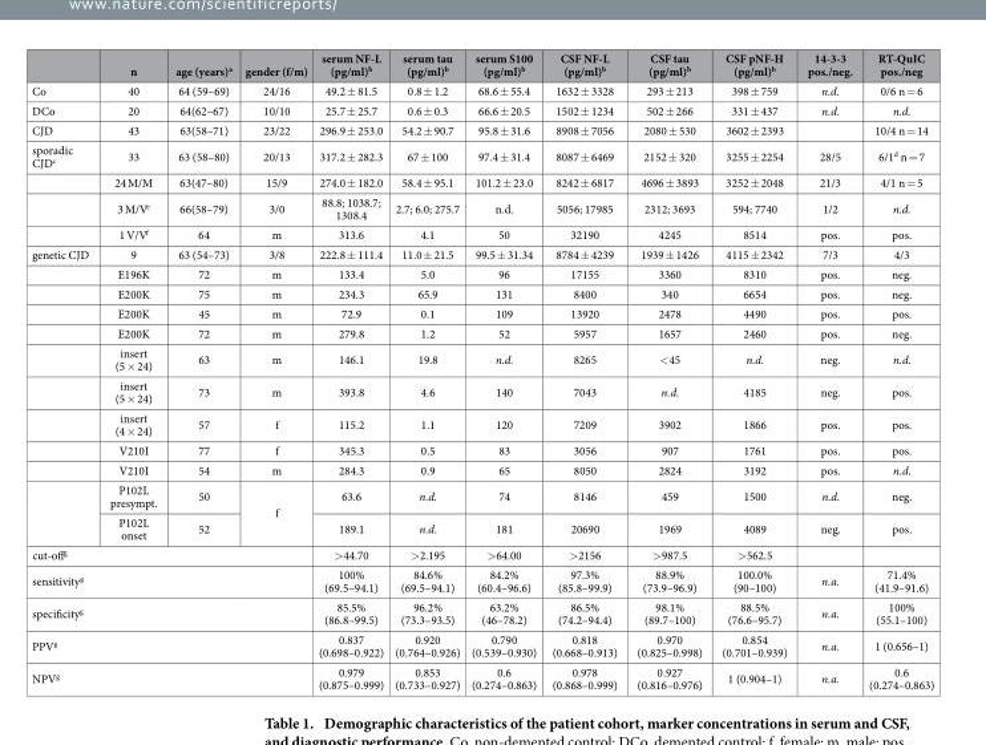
<table><thead><tr><td></td><td>n</td><td>age (years)<sup>a</sup></td><td>gender (f/m)</td><td>serum NF-L (pg/ml)<sup>b</sup></td><td>serum tau (pg/ml)<sup>b</sup></td><td>serum S100 (pg/ml)<sup>b</sup></td><td>CSF NF-L (pg/ml)<sup>b</sup></td><td>CSF tau (pg/ml)<sup>b</sup></td><td>CSF pNF-H (pg/ml)<sup>b</sup></td><td>14-3-3 pos./neg.</td><td>RT-QuIC pos./neg</td></tr></thead><tbody><tr><td>Co</td><td>40</td><td>64 (59–69)</td><td>24/16</td><td>49.2 ± 81.5</td><td>0.8 ± 1.2</td><td>68.6 ± 55.4</td><td>1632 ± 3328</td><td>293 ± 213</td><td>398 ± 759</td><td>n.d.</td><td>0/6 n = 6</td></tr><tr><td>DCo</td><td>20</td><td>64(62–67)</td><td>10/10</td><td>25.7 ± 25.7</td><td>0.6 ± 0.3</td><td>66.6 ± 20.5</td><td>1502 ± 1234</td><td>502 ± 266</td><td>331 ± 437</td><td>n.d.</td><td>n.d.</td></tr><tr><td>CJD</td><td>43</td><td>63(58–71)</td><td>23/22</td><td>296.9 ± 253.0</td><td>54.2 ± 90.7</td><td>95.8 ± 31.6</td><td>8908 ± 7056</td><td>2080 ± 530</td><td>3602 ± 2393</td><td></td><td>10/4 n = 14</td></tr><tr><td rowspan="4">sporadic CJD<sup>c</sup></td><td>33</td><td>63 (58–80)</td><td>20/13</td><td>317.2 ± 282.3</td><td>67 ± 100</td><td>97.4 ± 31.4</td><td>8087 ± 6469</td><td>2152 ± 320</td><td>3255 ± 2254</td><td>28/5</td><td>6/1<sup>d</sup> n = 7</td></tr><tr><td>24 M/M</td><td>63(47–80)</td><td>15/9</td><td>274.0 ± 182.0</td><td>58.4 ± 95.1</td><td>101.2 ± 23.0</td><td>8242 ± 6817</td><td>4696 ± 3893</td><td>3252 ± 2048</td><td>21/3</td><td>4/1 n = 5</td></tr><tr><td>3 M/V<sup>e</sup></td><td>66(58–79)</td><td>3/0</td><td>88.8; 1038.7; 1308.4</td><td>2.7; 6.0; 275.7</td><td>n.d.</td><td>5056; 17985</td><td>2312; 3693</td><td>594; 7740</td><td>1/2</td><td>n.d.</td></tr><tr><td>1 V/V<sup>f</sup></td><td>64</td><td>m</td><td>313.6</td><td>4.1</td><td>50</td><td>32190</td><td>4245</td><td>8514</td><td>pos.</td><td>pos.</td></tr><tr><td rowspan="12">genetic CJD</td><td>9</td><td>63 (54–73)</td><td>3/8</td><td>222.8 ± 111.4</td><td>11.0 ± 21.5</td><td>99.5 ± 31.34</td><td>8784 ± 4239</td><td>1939 ± 1426</td><td>4115 ± 2342</td><td>7/3</td><td>4/3</td></tr><tr><td>E196K</td><td>72</td><td>m</td><td>133.4</td><td>5.0</td><td>96</td><td>17155</td><td>3360</td><td>8310</td><td>pos.</td><td>neg.</td></tr><tr><td>E200K</td><td>75</td><td>m</td><td>234.3</td><td>65.9</td><td>131</td><td>8400</td><td>340</td><td>6654</td><td>pos.</td><td>neg.</td></tr><tr><td>E200K</td><td>45</td><td>m</td><td>72.9</td><td>0.1</td><td>109</td><td>13920</td><td>2478</td><td>4490</td><td>pos.</td><td>pos.</td></tr><tr><td>E200K</td><td>72</td><td>m</td><td>279.8</td><td>1.2</td><td>52</td><td>5957</td><td>1657</td><td>2460</td><td>pos.</td><td>neg.</td></tr><tr><td>insert (5 × 24)</td><td>63</td><td>m</td><td>146.1</td><td>19.8</td><td>n.d.</td><td>8265</td><td>&lt; 45</td><td>n.d.</td><td>neg.</td><td>n.d.</td></tr><tr><td>insert (5 × 24)</td><td>73</td><td>m</td><td>393.8</td><td>4.6</td><td>140</td><td>7043</td><td>n.d.</td><td>4185</td><td>neg.</td><td>pos.</td></tr><tr><td>insert (4 × 24)</td><td>57</td><td>f</td><td>115.2</td><td>1.1</td><td>120</td><td>7209</td><td>3902</td><td>1866</td><td>pos.</td><td>pos.</td></tr><tr><td>V210I</td><td>77</td><td>f</td><td>345.3</td><td>0.5</td><td>83</td><td>3056</td><td>907</td><td>1761</td><td>pos.</td><td>pos.</td></tr><tr><td>V210I</td><td>54</td><td>m</td><td>284.3</td><td>0.9</td><td>65</td><td>8050</td><td>2824</td><td>3192</td><td>pos.</td><td>n.d.</td></tr><tr><td>P102L presympt.</td><td>50</td><td rowspan="2">f</td><td>63.6</td><td>n.d.</td><td>74</td><td>8146</td><td>459</td><td>1500</td><td>n.d.</td><td>neg.</td></tr><tr><td>P102L onset</td><td>52</td><td>189.1</td><td>n.d.</td><td>181</td><td>20690</td><td>1969</td><td>4089</td><td>neg.</td><td>pos.</td></tr><tr><td colspan="4">cut-off<sup>g</sup></td><td>&gt; 44.70</td><td>&gt; 2.195</td><td>&gt; 64.00</td><td>&gt; 2156</td><td>&gt; 987.5</td><td>&gt; 562.5</td><td></td><td></td></tr><tr><td colspan="4">sensitivity<sup>g</sup></td><td>100% (69.5–94.1)</td><td>84.6% (69.5–94.1)</td><td>84.2% (60.4–96.6)</td><td>97.3% (85.8–99.9)</td><td>88.9% (73.9–96.9)</td><td>100.0% (90–100)</td><td>n.a.</td><td>71.4% (41.9–91.6)</td></tr><tr><td colspan="4">specificity<sup>g</sup></td><td>85.5% (86.8–99.5)</td><td>96.2% (73.3–93.5)</td><td>63.2% (46–78.2)</td><td>86.5% (74.2–94.4)</td><td>98.1% (89.7–100)</td><td>88.5% (76.6–95.7)</td><td>n.a.</td><td>100% (55.1–100)</td></tr><tr><td colspan="4">PPV<sup>g</sup></td><td>0.837 (0.698–0.922)</td><td>0.920 (0.764–0.926)</td><td>0.790 (0.539–0.930)</td><td>0.818 (0.668–0.913)</td><td>0.970 (0.825–0.998)</td><td>0.854 (0.701–0.939)</td><td>n.a.</td><td>1 (0.656–1)</td></tr><tr><td colspan="4">NPV<sup>g</sup></td><td>0.979 (0.875–0.999)</td><td>0.853 (0.733–0.927)</td><td>0.6 (0.274–0.863)</td><td>0.978 (0.868–0.999)</td><td>0.927 (0.816–0.976)</td><td>1 (0.904–1)</td><td>n.a.</td><td>0.6 (0.274–0.863)</td></tr></tbody></table>